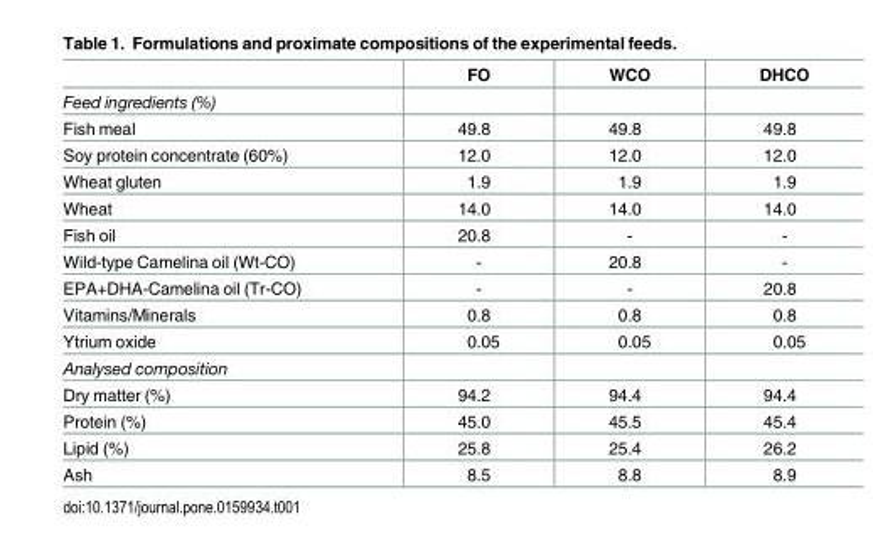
<table><thead><tr><td></td><td>FO</td><td>WCO</td><td>DHCO</td></tr></thead><tbody><tr><td colspan="4">Feed ingredients (%)</td></tr><tr><td>Fish meal</td><td>49.8</td><td>49.8</td><td>49.8</td></tr><tr><td>Soy protein concentrate (60%)</td><td>12.0</td><td>12.0</td><td>12.0</td></tr><tr><td>Wheat gluten</td><td>1.9</td><td>1.9</td><td>1.9</td></tr><tr><td>Wheat</td><td>14.0</td><td>14.0</td><td>14.0</td></tr><tr><td>Fish oil</td><td>20.8</td><td>-</td><td>-</td></tr><tr><td>Wild-type Camelina oil (Wt-CO)</td><td>-</td><td>20.8</td><td>-</td></tr><tr><td>EPA+DHA-Camelina oil (Tr-CO)</td><td>-</td><td>-</td><td>20.8</td></tr><tr><td>Vitamins/Minerals</td><td>0.8</td><td>0.8</td><td>0.8</td></tr><tr><td>Ytrium oxide</td><td>0.05</td><td>0.05</td><td>0.05</td></tr><tr><td colspan="4">Analysed composition</td></tr><tr><td>Dry matter (%)</td><td>94.2</td><td>94.4</td><td>94.4</td></tr><tr><td>Protein (%)</td><td>45.0</td><td>45.5</td><td>45.4</td></tr><tr><td>Lipid (%)</td><td>25.8</td><td>25.4</td><td>26.2</td></tr><tr><td>Ash</td><td>8.5</td><td>8.8</td><td>8.9</td></tr></tbody></table>